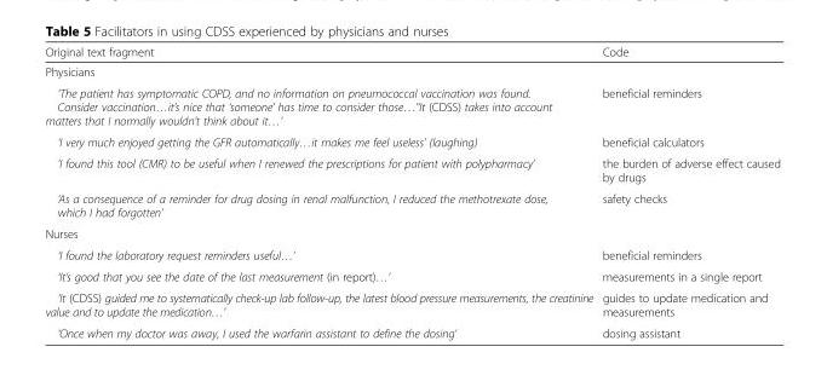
<table><thead><tr><td>Original text fragment</td><td>Code</td></tr></thead><tbody><tr><td colspan="2">Physicians</td></tr><tr><td>‘The patient has symptomatic COPD, and no information on pneumococcal vaccination was found. Consider vaccination…it’s nice that ‘someone’ has time to consider those…’‘It (CDSS) takes into account matters that I normally wouldn’t think about it…’</td><td>beneficial reminders</td></tr><tr><td>‘I very much enjoyed getting the GFR automatically…it makes me feel useless’ (laughing)</td><td>beneficial calculators</td></tr><tr><td>’I found this tool (CMR) to be useful when I renewed the prescriptions for patient with polypharmacy’</td><td>the burden of adverse effect caused by drugs</td></tr><tr><td>‘As a consequence of a reminder for drug dosing in renal malfunction, I reduced the methotrexate dose, which I had forgotten’</td><td>safety checks</td></tr><tr><td colspan="2">Nurses</td></tr><tr><td>‘I found the laboratory request reminders useful…’</td><td>beneficial reminders</td></tr><tr><td>‘It’s good that you see the date of the last measurement (in report)…’</td><td>measurements in a single report</td></tr><tr><td>‘It (CDSS) guided me to systematically check-up lab follow-up, the latest blood pressure measurements, the creatinine value and to update the medication…’</td><td>guides to update medication and measurements</td></tr><tr><td>‘Once when my doctor was away, I used the warfarin assistant to define the dosing’</td><td>dosing assistant</td></tr></tbody></table>